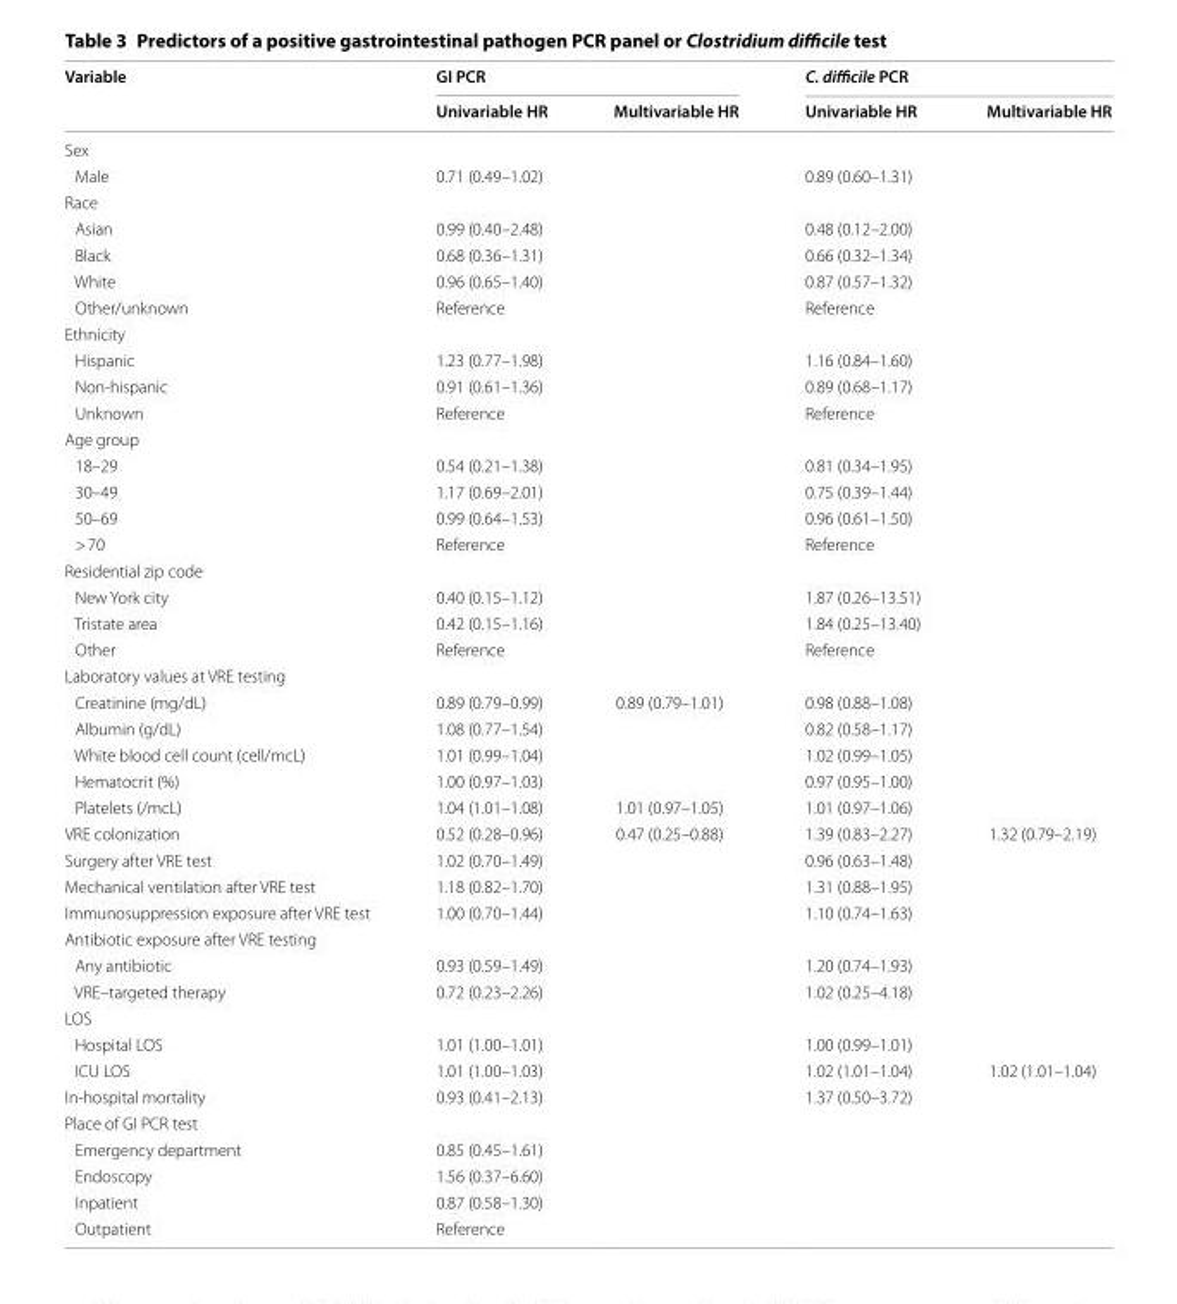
<table><thead><tr><td rowspan="2">Variable</td><td colspan="2">GI PCR</td><td colspan="2">C. difficile PCR</td></tr><tr><td>Univariable HR</td><td>Multivariable HR</td><td>Univariable HR</td><td>Multivariable HR</td></tr></thead><tbody><tr><td colspan="5">Sex</td></tr><tr><td>Male</td><td>0.71 (0.49–1.02)</td><td></td><td>0.89 (0.60–1.31)</td><td></td></tr><tr><td colspan="5">Race</td></tr><tr><td>Asian</td><td>0.99 (0.40–2.48)</td><td></td><td>0.48 (0.12–2.00)</td><td></td></tr><tr><td>Black</td><td>0.68 (0.36–1.31)</td><td></td><td>0.66 (0.32–1.34)</td><td></td></tr><tr><td>White</td><td>0.96 (0.65–1.40)</td><td></td><td>0.87 (0.57–1.32)</td><td></td></tr><tr><td>Other/unknown</td><td>Reference</td><td></td><td>Reference</td><td></td></tr><tr><td colspan="5">Ethnicity</td></tr><tr><td>Hispanic</td><td>1.23 (0.77–1.98)</td><td></td><td>1.16 (0.84–1.60)</td><td></td></tr><tr><td>Non-hispanic</td><td>0.91 (0.61–1.36)</td><td></td><td>0.89 (0.68–1.17)</td><td></td></tr><tr><td>Unknown</td><td>Reference</td><td></td><td>Reference</td><td></td></tr><tr><td colspan="5">Age group</td></tr><tr><td>18–29</td><td>0.54 (0.21–1.38)</td><td></td><td>0.81 (0.34–1.95)</td><td></td></tr><tr><td>30–49</td><td>1.17 (0.69–2.01)</td><td></td><td>0.75 (0.39–1.44)</td><td></td></tr><tr><td>50–69</td><td>0.99 (0.64–1.53)</td><td></td><td>0.96 (0.61–1.50)</td><td></td></tr><tr><td>&gt; 70</td><td>Reference</td><td></td><td>Reference</td><td></td></tr><tr><td colspan="5">Residential zip code</td></tr><tr><td>New York city</td><td>0.40 (0.15–1.12)</td><td></td><td>1.87 (0.26–13.51)</td><td></td></tr><tr><td>Tristate area</td><td>0.42 (0.15–1.16)</td><td></td><td>1.84 (0.25–13.40)</td><td></td></tr><tr><td>Other</td><td>Reference</td><td></td><td>Reference</td><td></td></tr><tr><td colspan="5">Laboratory values at VRE testing</td></tr><tr><td>Creatinine (mg/dL)</td><td>0.89 (0.79–0.99)</td><td>0.89 (0.79–1.01)</td><td>0.98 (0.88–1.08)</td><td></td></tr><tr><td>Albumin (g/dL)</td><td>1.08 (0.77–1.54)</td><td></td><td>0.82 (0.58–1.17)</td><td></td></tr><tr><td>White blood cell count (cell/mcL)</td><td>1.01 (0.99–1.04)</td><td></td><td>1.02 (0.99–1.05)</td><td></td></tr><tr><td>Hematocrit (%)</td><td>1.00 (0.97–1.03)</td><td></td><td>0.97 (0.95–1.00)</td><td></td></tr><tr><td>Platelets (/mcL)</td><td>1.04 (1.01–1.08)</td><td>1.01 (0.97–1.05)</td><td>1.01 (0.97–1.06)</td><td></td></tr><tr><td>VRE colonization</td><td>0.52 (0.28–0.96)</td><td>0.47 (0.25–0.88)</td><td>1.39 (0.83–2.27)</td><td>1.32 (0.79–2.19)</td></tr><tr><td>Surgery after VRE test</td><td>1.02 (0.70–1.49)</td><td></td><td>0.96 (0.63–1.48)</td><td></td></tr><tr><td>Mechanical ventilation after VRE test</td><td>1.18 (0.82–1.70)</td><td></td><td>1.31 (0.88–1.95)</td><td></td></tr><tr><td>Immunosuppression exposure after VRE test</td><td>1.00 (0.70–1.44)</td><td></td><td>1.10 (0.74–1.63)</td><td></td></tr><tr><td colspan="5">Antibiotic exposure after VRE testing</td></tr><tr><td>Any antibiotic</td><td>0.93 (0.59–1.49)</td><td></td><td>1.20 (0.74–1.93)</td><td></td></tr><tr><td>VRE–targeted therapy</td><td>0.72 (0.23–2.26)</td><td></td><td>1.02 (0.25–4.18)</td><td></td></tr><tr><td colspan="5">LOS</td></tr><tr><td>Hospital LOS</td><td>1.01 (1.00–1.01)</td><td></td><td>1.00 (0.99–1.01)</td><td></td></tr><tr><td>ICU LOS</td><td>1.01 (1.00–1.03)</td><td></td><td>1.02 (1.01–1.04)</td><td>1.02 (1.01–1.04)</td></tr><tr><td>In-hospital mortality</td><td>0.93 (0.41–2.13)</td><td></td><td>1.37 (0.50–3.72)</td><td></td></tr><tr><td colspan="5">Place of GI PCR test</td></tr><tr><td>Emergency department</td><td>0.85 (0.45–1.61)</td><td></td><td></td><td></td></tr><tr><td>Endoscopy</td><td>1.56 (0.37–6.60)</td><td></td><td></td><td></td></tr><tr><td>Inpatient</td><td>0.87 (0.58–1.30)</td><td></td><td></td><td></td></tr><tr><td>Outpatient</td><td>Reference</td><td></td><td></td><td></td></tr></tbody></table>